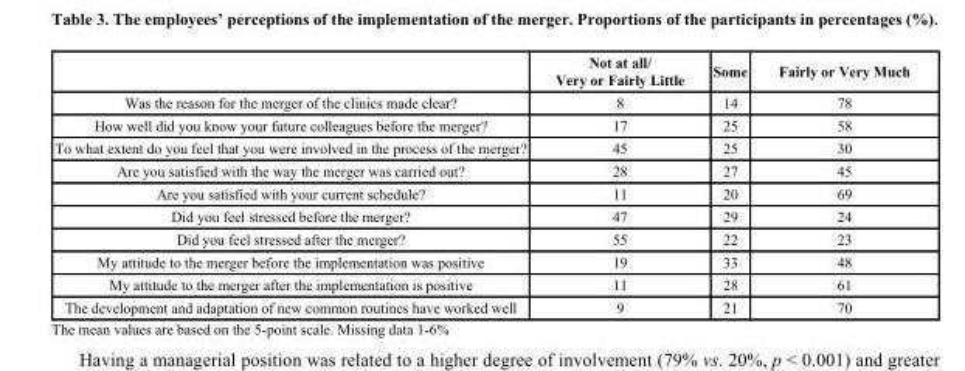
<table><thead><tr><td></td><td>Not at all/ Very or Fairly Little</td><td>Some</td><td>Fairly or Very Much</td></tr></thead><tbody><tr><td>Was the reason for the merger of the clinics made clear?</td><td>8</td><td>14</td><td>78</td></tr><tr><td>How well did you know your future colleagues before the merger?</td><td>17</td><td>25</td><td>58</td></tr><tr><td>To what extent do you feel that you were involved in the process of the merger?</td><td>45</td><td>25</td><td>30</td></tr><tr><td>Are you satisfied with the way the merger was carried out?</td><td>28</td><td>27</td><td>45</td></tr><tr><td>Are you satisfied with your current schedule?</td><td>11</td><td>20</td><td>69</td></tr><tr><td>Did you feel stressed before the merger?</td><td>47</td><td>29</td><td>24</td></tr><tr><td>Did you feel stressed after the merger?</td><td>55</td><td>22</td><td>23</td></tr><tr><td>My attitude to the merger before the implementation was positive</td><td>19</td><td>33</td><td>48</td></tr><tr><td>My attitude to the merger after the implementation is positive</td><td>11</td><td>28</td><td>61</td></tr><tr><td>The development and adaptation of new common routines have worked well</td><td>9</td><td>21</td><td>70</td></tr></tbody></table>